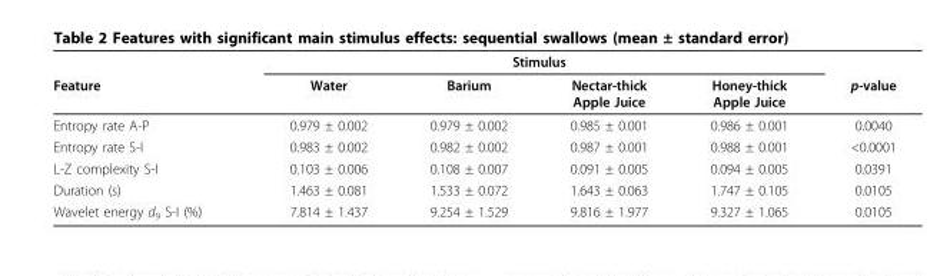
<table><thead><tr><td rowspan="2">Feature</td><td colspan="4">Stimulus</td><td rowspan="2">p-value</td></tr><tr><td>Water</td><td>Barium</td><td>Nectar-thick Apple Juice</td><td>Honey-thick Apple Juice</td></tr></thead><tbody><tr><td>Entropy rate A-P</td><td>0.979 ± 0.002</td><td>0.979 ± 0.002</td><td>0.985 ± 0.001</td><td>0.986 ± 0.001</td><td>0.0040</td></tr><tr><td>Entropy rate S-I</td><td>0.983 ± 0.002</td><td>0.982 ± 0.002</td><td>0.987 ± 0.001</td><td>0.988 ± 0.001</td><td>&lt;0.0001</td></tr><tr><td>L-Z complexity S-I</td><td>0.103 ± 0.006</td><td>0.108 ± 0.007</td><td>0.091 ± 0.005</td><td>0.094 ± 0.005</td><td>0.0391</td></tr><tr><td>Duration (s)</td><td>1.463 ± 0.081</td><td>1.533 ± 0.072</td><td>1.643 ± 0.063</td><td>1.747 ± 0.105</td><td>0.0105</td></tr><tr><td>Wavelet energy d<sub>9</sub> S-I (%)</td><td>7.814 ± 1.437</td><td>9.254 ± 1.529</td><td>9.816 ± 1.977</td><td>9.327 ± 1.065</td><td>0.0105</td></tr></tbody></table>